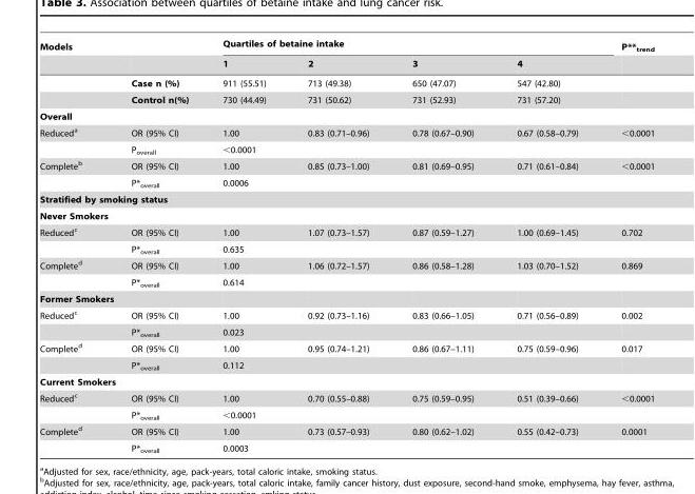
<table><thead><tr><td rowspan="2">Models</td><td rowspan="2"></td><td colspan="4">Quartiles of betaine intake</td><td rowspan="2">P**<sub>trend</sub></td></tr><tr><td>1</td><td>2</td><td>3</td><td>4</td></tr></thead><tbody><tr><td></td><td>Case n (%)</td><td>911 (55.51)</td><td>713 (49.38)</td><td>650 (47.07)</td><td>547 (42.80)</td><td></td></tr><tr><td></td><td>Control n(%)</td><td>730 (44.49)</td><td>731 (50.62)</td><td>731 (52.93)</td><td>731 (57.20)</td><td></td></tr><tr><td colspan="7">Overall</td></tr><tr><td rowspan="2">Reduced<sup>a</sup></td><td>OR (95% CI)</td><td>1.00</td><td>0.83 (0.71–0.96)</td><td>0.78 (0.67–0.90)</td><td>0.67 (0.58–0.79)</td><td>&lt;0.0001</td></tr><tr><td>P<sub>overall</sub></td><td colspan="4">&lt;0.0001</td><td></td></tr><tr><td rowspan="2">Complete<sup>b</sup></td><td>OR (95% CI)</td><td>1.00</td><td>0.85 (0.73–1.00)</td><td>0.81 (0.69–0.95)</td><td>0.71 (0.61–0.84)</td><td>&lt;0.0001</td></tr><tr><td>P*<sub>overall</sub></td><td colspan="4">0.0006</td><td></td></tr><tr><td colspan="7">Stratified by smoking status</td></tr><tr><td colspan="7">Never Smokers</td></tr><tr><td rowspan="2">Reduced<sup>c</sup></td><td>OR (95% CI)</td><td>1.00</td><td>1.07 (0.73–1.57)</td><td>0.87 (0.59–1.27)</td><td>1.00 (0.69–1.45)</td><td>0.702</td></tr><tr><td>P*<sub>overall</sub></td><td colspan="4">0.635</td><td></td></tr><tr><td rowspan="2">Complete<sup>d</sup></td><td>OR (95% CI)</td><td>1.00</td><td>1.06 (0.72–1.57)</td><td>0.86 (0.58–1.28)</td><td>1.03 (0.70–1.52)</td><td>0.869</td></tr><tr><td>P*<sub>overall</sub></td><td colspan="4">0.614</td><td></td></tr><tr><td colspan="7">Former Smokers</td></tr><tr><td rowspan="2">Reduced<sup>c</sup></td><td>OR (95% CI)</td><td>1.00</td><td>0.92 (0.73–1.16)</td><td>0.83 (0.66–1.05)</td><td>0.71 (0.56–0.89)</td><td>0.002</td></tr><tr><td>P*<sub>overall</sub></td><td colspan="4">0.023</td><td></td></tr><tr><td rowspan="2">Complete<sup>d</sup></td><td>OR (95% CI)</td><td>1.00</td><td>0.95 (0.74–1.21)</td><td>0.86 (0.67–1.11)</td><td>0.75 (0.59–0.96)</td><td>0.017</td></tr><tr><td>P*<sub>overall</sub></td><td colspan="4">0.112</td><td></td></tr><tr><td colspan="7">Current Smokers</td></tr><tr><td rowspan="2">Reduced<sup>c</sup></td><td>OR (95% CI)</td><td>1.00</td><td>0.70 (0.55–0.88)</td><td>0.75 (0.59–0.95)</td><td>0.51 (0.39–0.66)</td><td>&lt;0.0001</td></tr><tr><td>P*<sub>overall</sub></td><td colspan="4">&lt;0.0001</td><td></td></tr><tr><td rowspan="2">Complete<sup>d</sup></td><td>OR (95% CI)</td><td>1.00</td><td>0.73 (0.57–0.93)</td><td>0.80 (0.62–1.02)</td><td>0.55 (0.42–0.73)</td><td>0.0001</td></tr><tr><td>P*<sub>overall</sub></td><td colspan="4">0.0003</td><td></td></tr></tbody></table>